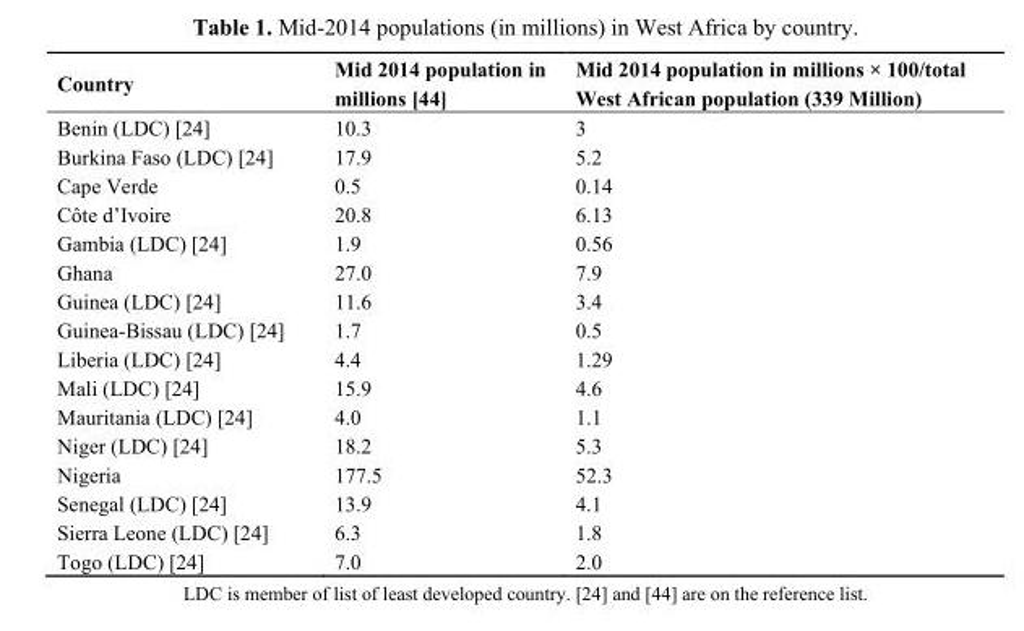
<table><thead><tr><td>Country</td><td>Mid 2014 population in millions [44]</td><td>Mid 2014 population in millions × 100/total West African population (339 Million)</td></tr></thead><tbody><tr><td>Benin (LDC) [24]</td><td>10.3</td><td>3</td></tr><tr><td>Burkina Faso (LDC) [24]</td><td>17.9</td><td>5.2</td></tr><tr><td>Cape Verde</td><td>0.5</td><td>0.14</td></tr><tr><td>Côte d’Ivoire</td><td>20.8</td><td>6.13</td></tr><tr><td>Gambia (LDC) [24]</td><td>1.9</td><td>0.56</td></tr><tr><td>Ghana</td><td>27.0</td><td>7.9</td></tr><tr><td>Guinea (LDC) [24]</td><td>11.6</td><td>3.4</td></tr><tr><td>Guinea-Bissau (LDC) [24]</td><td>1.7</td><td>0.5</td></tr><tr><td>Liberia (LDC) [24]</td><td>4.4</td><td>1.29</td></tr><tr><td>Mali (LDC) [24]</td><td>15.9</td><td>4.6</td></tr><tr><td>Mauritania (LDC) [24]</td><td>4.0</td><td>1.1</td></tr><tr><td>Niger (LDC) [24]</td><td>18.2</td><td>5.3</td></tr><tr><td>Nigeria</td><td>177.5</td><td>52.3</td></tr><tr><td>Senegal (LDC) [24]</td><td>13.9</td><td>4.1</td></tr><tr><td>Sierra Leone (LDC) [24]</td><td>6.3</td><td>1.8</td></tr><tr><td>Togo (LDC) [24]</td><td>7.0</td><td>2.0</td></tr></tbody></table>